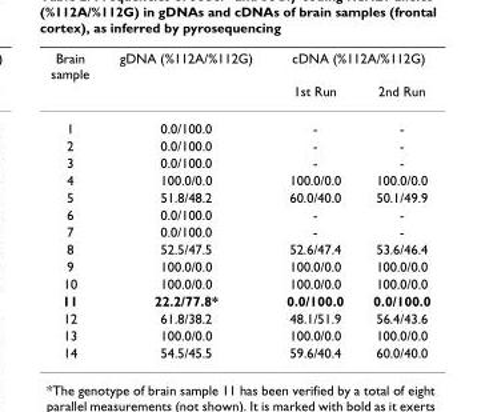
<table><thead><tr><td rowspan="2">Brain sample</td><td rowspan="2">gDNA (%112A/%112G)</td><td colspan="2">cDNA (%112A/%112G)</td></tr><tr><td>1st Run</td><td>2nd Run</td></tr></thead><tbody><tr><td>1</td><td>0.0/100.0</td><td>-</td><td>-</td></tr><tr><td>2</td><td>0.0/100.0</td><td>-</td><td>-</td></tr><tr><td>3</td><td>0.0/100.0</td><td>-</td><td>-</td></tr><tr><td>4</td><td>100.0/0.0</td><td>100.0/0.0</td><td>100.0/0.0</td></tr><tr><td>5</td><td>51.8/48.2</td><td>60.0/40.0</td><td>50.1/49.9</td></tr><tr><td>6</td><td>0.0/100.0</td><td>-</td><td>-</td></tr><tr><td>7</td><td>0.0/100.0</td><td>-</td><td>-</td></tr><tr><td>8</td><td>52.5/47.5</td><td>52.6/47.4</td><td>53.6/46.4</td></tr><tr><td>9</td><td>100.0/0.0</td><td>100.0/0.0</td><td>100.0/0.0</td></tr><tr><td>10</td><td>100.0/0.0</td><td>100.0/0.0</td><td>100.0/0.0</td></tr><tr><td>11</td><td>22.2/77.8*</td><td>0.0/100.0</td><td>0.0/100.0</td></tr><tr><td>12</td><td>61.8/38.2</td><td>48.1/51.9</td><td>56.4/43.6</td></tr><tr><td>13</td><td>100.0/0.0</td><td>100.0/0.0</td><td>100.0/0.0</td></tr><tr><td>14</td><td>54.5/45.5</td><td>59.6/40.4</td><td>60.0/40.0</td></tr></tbody></table>